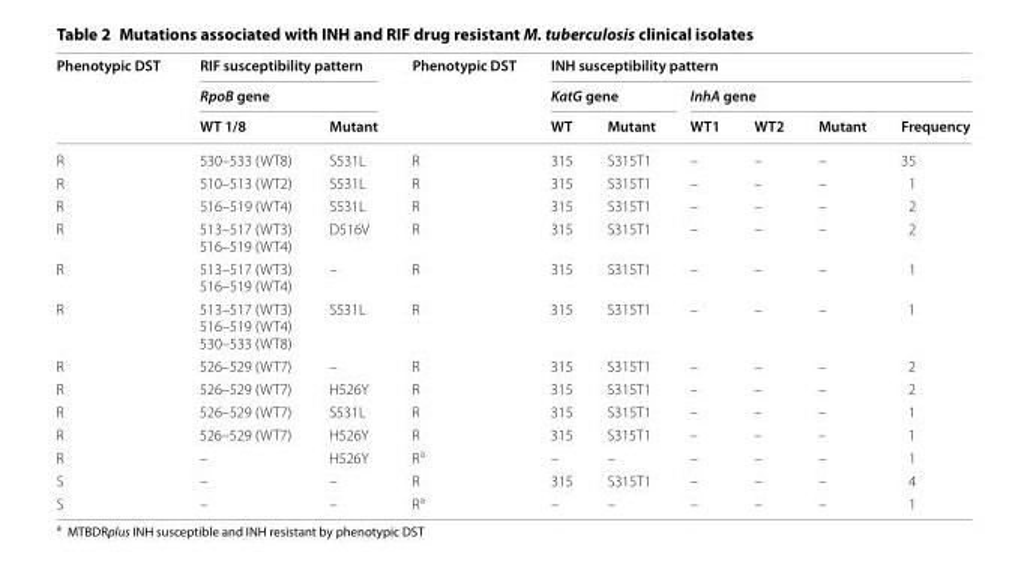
<table><thead><tr><td rowspan="3">Phenotypic DST</td><td rowspan="2" colspan="2">RIF susceptibility pattern RpoB gene</td><td rowspan="3">Phenotypic DST</td><td colspan="6">INH susceptibility pattern</td></tr><tr><td colspan="2">KatG gene</td><td colspan="4">InhA gene</td></tr><tr><td>WT 1/8</td><td>Mutant</td><td>WT</td><td>Mutant</td><td>WT1</td><td>WT2</td><td>Mutant</td><td>Frequency</td></tr></thead><tbody><tr><td>R</td><td>530–533 (WT8)</td><td>S531L</td><td>R</td><td>315</td><td>S315T1</td><td>–</td><td>–</td><td>–</td><td>35</td></tr><tr><td>R</td><td>510–513 (WT2)</td><td>S531L</td><td>R</td><td>315</td><td>S315T1</td><td>–</td><td>–</td><td>–</td><td>1</td></tr><tr><td>R</td><td>516–519 (WT4)</td><td>S531L</td><td>R</td><td>315</td><td>S315T1</td><td>–</td><td>–</td><td>–</td><td>2</td></tr><tr><td>R</td><td>513–517 (WT3) 516–519 (WT4)</td><td>D516V</td><td>R</td><td>315</td><td>S315T1</td><td>–</td><td>–</td><td>–</td><td>2</td></tr><tr><td>R</td><td>513–517 (WT3) 516–519 (WT4)</td><td>–</td><td>R</td><td>315</td><td>S315T1</td><td>–</td><td>–</td><td>–</td><td>1</td></tr><tr><td>R</td><td>513–517 (WT3) 516–519 (WT4) 530–533 (WT8)</td><td>S531L</td><td>R</td><td>315</td><td>S315T1</td><td>–</td><td>–</td><td>–</td><td>1</td></tr><tr><td>R</td><td>526–529 (WT7)</td><td>–</td><td>R</td><td>315</td><td>S315T1</td><td>–</td><td>–</td><td>–</td><td>2</td></tr><tr><td>R</td><td>526–529 (WT7)</td><td>H526Y</td><td>R</td><td>315</td><td>S315T1</td><td>–</td><td>–</td><td>–</td><td>2</td></tr><tr><td>R</td><td>526–529 (WT7)</td><td>S531L</td><td>R</td><td>315</td><td>S315T1</td><td>–</td><td>–</td><td>–</td><td>1</td></tr><tr><td>R</td><td>526–529 (WT7)</td><td>H526Y</td><td>R</td><td>315</td><td>S315T1</td><td>–</td><td>–</td><td>–</td><td>1</td></tr><tr><td>R</td><td>–</td><td>H526Y</td><td>R<sup>a</sup></td><td>–</td><td>–</td><td>–</td><td>–</td><td>–</td><td>1</td></tr><tr><td>S</td><td>–</td><td>–</td><td>R</td><td>315</td><td>S315T1</td><td>–</td><td>–</td><td>–</td><td>4</td></tr><tr><td>S</td><td>–</td><td>–</td><td>R<sup>a</sup></td><td>–</td><td>–</td><td>–</td><td>–</td><td>–</td><td>1</td></tr></tbody></table>